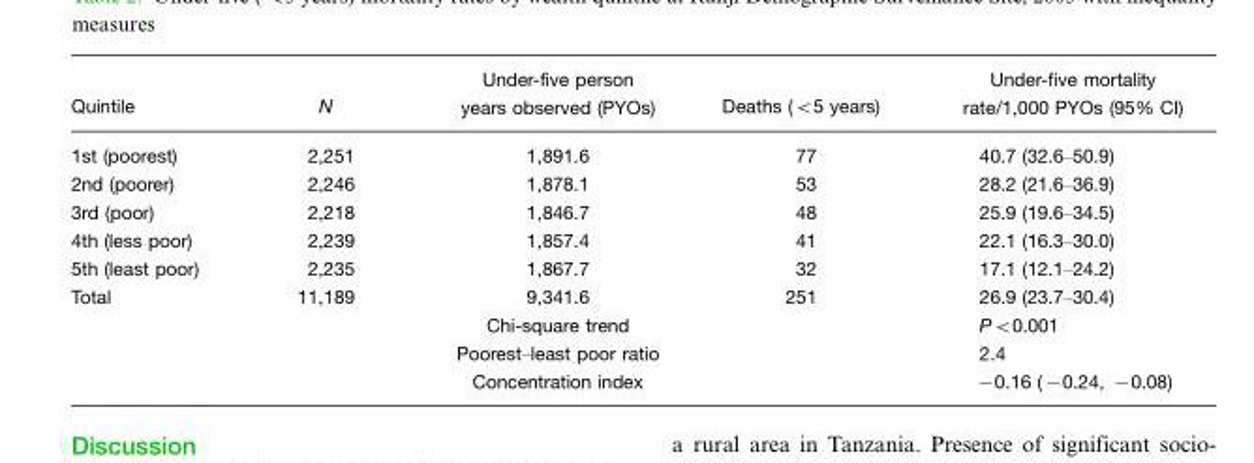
<table><thead><tr><td>Quintile</td><td>N</td><td>Under-five person years observed (PYOs)</td><td>Deaths (&lt;5 years)</td><td>Under-five mortality rate/1,000 PYOs (95% CI)</td></tr></thead><tbody><tr><td>1st (poorest)</td><td>2,251</td><td>1,891.6</td><td>77</td><td>40.7 (32.6–50.9)</td></tr><tr><td>2nd (poorer)</td><td>2,246</td><td>1,878.1</td><td>53</td><td>28.2 (21.6–36.9)</td></tr><tr><td>3rd (poor)</td><td>2,218</td><td>1,846.7</td><td>48</td><td>25.9 (19.6–34.5)</td></tr><tr><td>4th (less poor)</td><td>2,239</td><td>1,857.4</td><td>41</td><td>22.1 (16.3–30.0)</td></tr><tr><td>5th (least poor)</td><td>2,235</td><td>1,867.7</td><td>32</td><td>17.1 (12.1–24.2)</td></tr><tr><td rowspan="4">Total</td><td>11,189</td><td>9,341.6</td><td>251</td><td>26.9 (23.7–30.4)</td></tr><tr><td></td><td>Chi-square trend</td><td></td><td>P&lt;0.001</td></tr><tr><td></td><td>Poorest–least poor ratio</td><td></td><td>2.4</td></tr><tr><td></td><td>Concentration index</td><td></td><td>−0.16 (−0.24, −0.08)</td></tr></tbody></table>